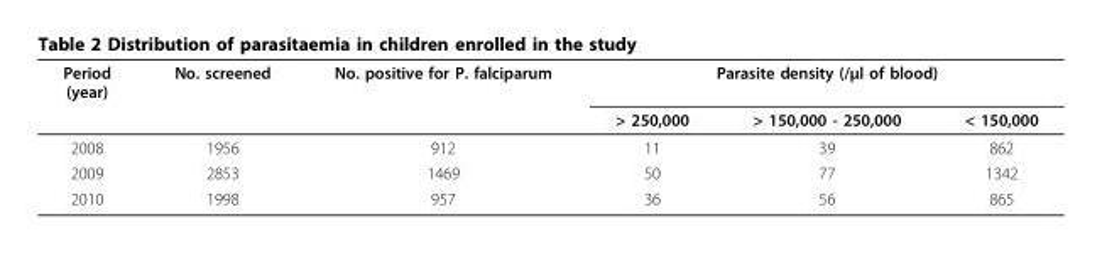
<table><thead><tr><td rowspan="2">Period (year)</td><td rowspan="2">No. screened</td><td rowspan="2">No. positive for P. falciparum</td><td colspan="3">Parasite density (/μl of blood)</td></tr><tr><td>&gt; 250,000</td><td>&gt; 150,000 - 250,000</td><td>&lt; 150,000</td></tr></thead><tbody><tr><td>2008</td><td>1956</td><td>912</td><td>11</td><td>39</td><td>862</td></tr><tr><td>2009</td><td>2853</td><td>1469</td><td>50</td><td>77</td><td>1342</td></tr><tr><td>2010</td><td>1998</td><td>957</td><td>36</td><td>56</td><td>865</td></tr></tbody></table>